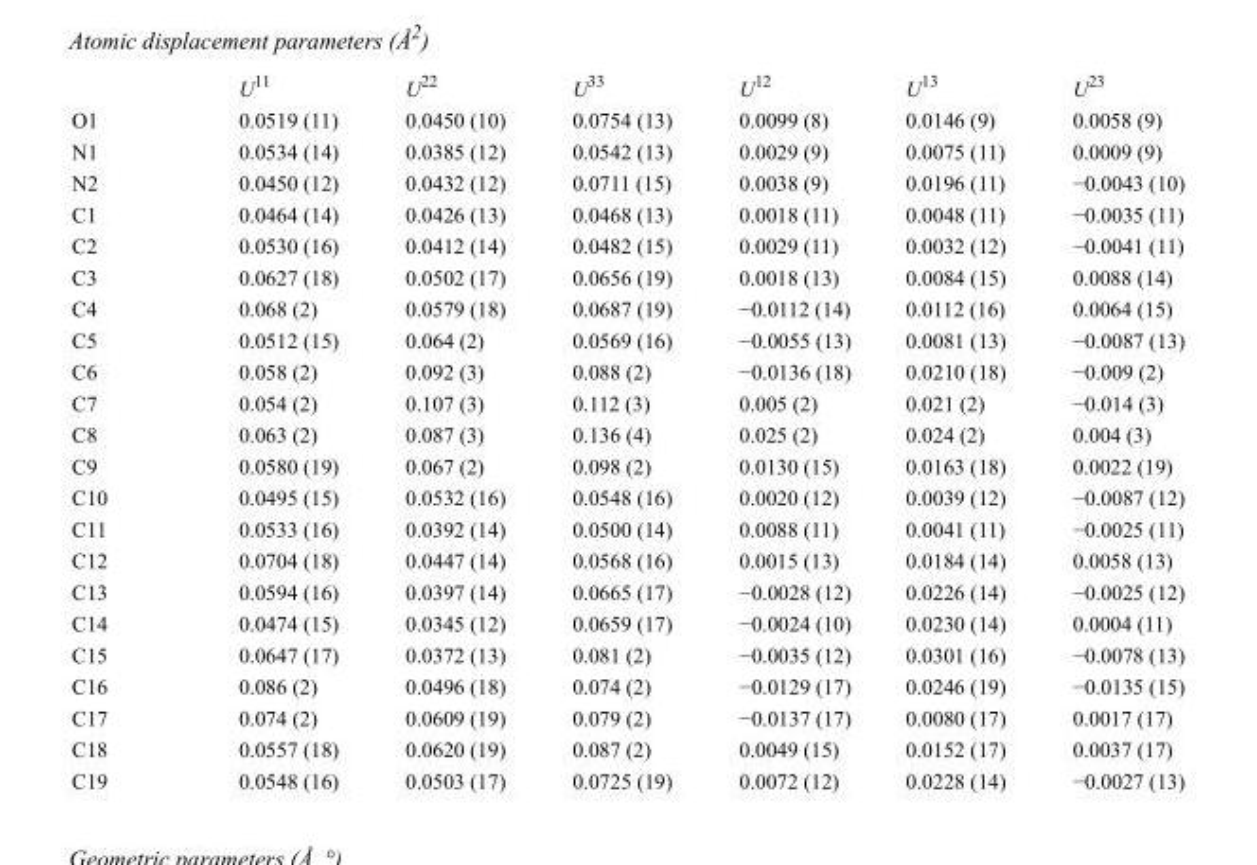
<table><thead><tr><td></td><td>U<sup>11</sup></td><td>U<sup>22</sup></td><td>U<sup>33</sup></td><td>U<sup>12</sup></td><td>U<sup>13</sup></td><td>U<sup>23</sup></td></tr></thead><tbody><tr><td>O1</td><td>0.0519 (11)</td><td>0.0450 (10)</td><td>0.0754 (13)</td><td>0.0099 (8)</td><td>0.0146 (9)</td><td>0.0058 (9)</td></tr><tr><td>N1</td><td>0.0534 (14)</td><td>0.0385 (12)</td><td>0.0542 (13)</td><td>0.0029 (9)</td><td>0.0075 (11)</td><td>0.0009 (9)</td></tr><tr><td>N2</td><td>0.0450 (12)</td><td>0.0432 (12)</td><td>0.0711 (15)</td><td>0.0038 (9)</td><td>0.0196 (11)</td><td>−0.0043 (10)</td></tr><tr><td>C1</td><td>0.0464 (14)</td><td>0.0426 (13)</td><td>0.0468 (13)</td><td>0.0018 (11)</td><td>0.0048 (11)</td><td>−0.0035 (11)</td></tr><tr><td>C2</td><td>0.0530 (16)</td><td>0.0412 (14)</td><td>0.0482 (15)</td><td>0.0029 (11)</td><td>0.0032 (12)</td><td>−0.0041 (11)</td></tr><tr><td>C3</td><td>0.0627 (18)</td><td>0.0502 (17)</td><td>0.0656 (19)</td><td>0.0018 (13)</td><td>0.0084 (15)</td><td>0.0088 (14)</td></tr><tr><td>C4</td><td>0.068 (2)</td><td>0.0579 (18)</td><td>0.0687 (19)</td><td>−0.0112 (14)</td><td>0.0112 (16)</td><td>0.0064 (15)</td></tr><tr><td>C5</td><td>0.0512 (15)</td><td>0.064 (2)</td><td>0.0569 (16)</td><td>−0.0055 (13)</td><td>0.0081 (13)</td><td>−0.0087 (13)</td></tr><tr><td>C6</td><td>0.058 (2)</td><td>0.092 (3)</td><td>0.088 (2)</td><td>−0.0136 (18)</td><td>0.0210 (18)</td><td>−0.009 (2)</td></tr><tr><td>C7</td><td>0.054 (2)</td><td>0.107 (3)</td><td>0.112 (3)</td><td>0.005 (2)</td><td>0.021 (2)</td><td>−0.014 (3)</td></tr><tr><td>C8</td><td>0.063 (2)</td><td>0.087 (3)</td><td>0.136 (4)</td><td>0.025 (2)</td><td>0.024 (2)</td><td>0.004 (3)</td></tr><tr><td>C9</td><td>0.0580 (19)</td><td>0.067 (2)</td><td>0.098 (2)</td><td>0.0130 (15)</td><td>0.0163 (18)</td><td>0.0022 (19)</td></tr><tr><td>C10</td><td>0.0495 (15)</td><td>0.0532 (16)</td><td>0.0548 (16)</td><td>0.0020 (12)</td><td>0.0039 (12)</td><td>−0.0087 (12)</td></tr><tr><td>C11</td><td>0.0533 (16)</td><td>0.0392 (14)</td><td>0.0500 (14)</td><td>0.0088 (11)</td><td>0.0041 (11)</td><td>−0.0025 (11)</td></tr><tr><td>C12</td><td>0.0704 (18)</td><td>0.0447 (14)</td><td>0.0568 (16)</td><td>0.0015 (13)</td><td>0.0184 (14)</td><td>0.0058 (13)</td></tr><tr><td>C13</td><td>0.0594 (16)</td><td>0.0397 (14)</td><td>0.0665 (17)</td><td>−0.0028 (12)</td><td>0.0226 (14)</td><td>−0.0025 (12)</td></tr><tr><td>C14</td><td>0.0474 (15)</td><td>0.0345 (12)</td><td>0.0659 (17)</td><td>−0.0024 (10)</td><td>0.0230 (14)</td><td>0.0004 (11)</td></tr><tr><td>C15</td><td>0.0647 (17)</td><td>0.0372 (13)</td><td>0.081 (2)</td><td>−0.0035 (12)</td><td>0.0301 (16)</td><td>−0.0078 (13)</td></tr><tr><td>C16</td><td>0.086 (2)</td><td>0.0496 (18)</td><td>0.074 (2)</td><td>−0.0129 (17)</td><td>0.0246 (19)</td><td>−0.0135 (15)</td></tr><tr><td>C17</td><td>0.074 (2)</td><td>0.0609 (19)</td><td>0.079 (2)</td><td>−0.0137 (17)</td><td>0.0080 (17)</td><td>0.0017 (17)</td></tr><tr><td>C18</td><td>0.0557 (18)</td><td>0.0620 (19)</td><td>0.087 (2)</td><td>0.0049 (15)</td><td>0.0152 (17)</td><td>0.0037 (17)</td></tr><tr><td>C19</td><td>0.0548 (16)</td><td>0.0503 (17)</td><td>0.0725 (19)</td><td>0.0072 (12)</td><td>0.0228 (14)</td><td>−0.0027 (13)</td></tr></tbody></table>